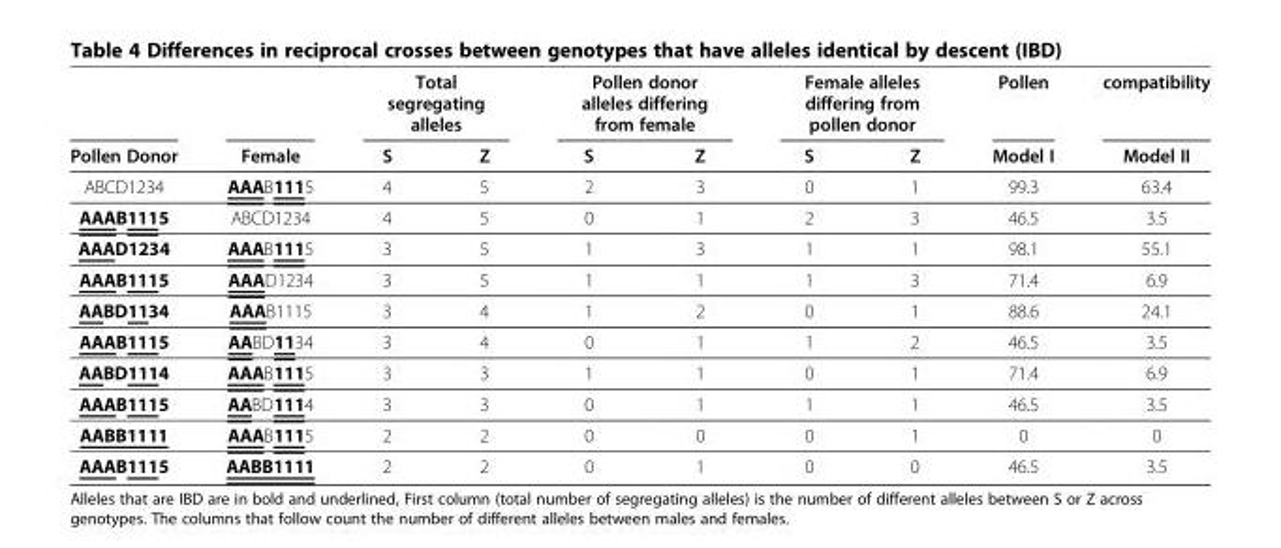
<table><thead><tr><td rowspan="2">Pollen Donor</td><td rowspan="2">Female</td><td colspan="2">Total segregating alleles</td><td colspan="2">Pollen donor alleles differing from female</td><td colspan="2">Female alleles differing from pollen donor</td><td rowspan="2">Pollen Model I</td><td rowspan="2">compatibility Model II</td></tr><tr><td>S</td><td>Z</td><td>S</td><td>Z</td><td>S</td><td>Z</td></tr></thead><tbody><tr><td>ABCD1234</td><td>AAAB1115</td><td>4</td><td>5</td><td>2</td><td>3</td><td>0</td><td>1</td><td>99.3</td><td>63.4</td></tr><tr><td>AAAB1115</td><td>ABCD1234</td><td>4</td><td>5</td><td>0</td><td>1</td><td>2</td><td>3</td><td>46.5</td><td>3.5</td></tr><tr><td>AAAD1234</td><td>AAAB1115</td><td>3</td><td>5</td><td>1</td><td>3</td><td>1</td><td>1</td><td>98.1</td><td>55.1</td></tr><tr><td>AAAB1115</td><td>AAAD1234</td><td>3</td><td>5</td><td>1</td><td>1</td><td>1</td><td>3</td><td>71.4</td><td>6.9</td></tr><tr><td>AABD1134</td><td>AAAB1115</td><td>3</td><td>4</td><td>1</td><td>2</td><td>0</td><td>1</td><td>88.6</td><td>24.1</td></tr><tr><td>AAAB1115</td><td>AABD1134</td><td>3</td><td>4</td><td>0</td><td>1</td><td>1</td><td>2</td><td>46.5</td><td>3.5</td></tr><tr><td>AABD1114</td><td>AAAB1115</td><td>3</td><td>3</td><td>1</td><td>1</td><td>0</td><td>1</td><td>71.4</td><td>6.9</td></tr><tr><td>AAAB1115</td><td>AABD1114</td><td>3</td><td>3</td><td>0</td><td>1</td><td>1</td><td>1</td><td>46.5</td><td>3.5</td></tr><tr><td>AABB1111</td><td>AAAB1115</td><td>2</td><td>2</td><td>0</td><td>0</td><td>0</td><td>1</td><td>0</td><td>0</td></tr><tr><td>AAAB1115</td><td>AABB1111</td><td>2</td><td>2</td><td>0</td><td>1</td><td>0</td><td>0</td><td>46.5</td><td>3.5</td></tr></tbody></table>